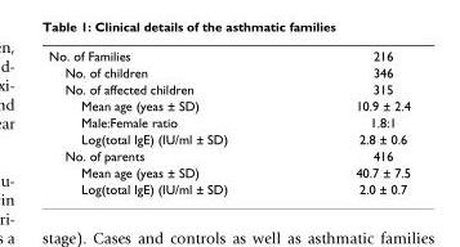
<table><tbody><tr><td>No. of Families</td><td>216</td></tr><tr><td>No. of children</td><td>346</td></tr><tr><td>No. of affected children</td><td>315</td></tr><tr><td>Mean age (yeas ± SD)</td><td>10.9 ± 2.4</td></tr><tr><td>Male:Female ratio</td><td>1.8:1</td></tr><tr><td>Log(total IgE) (IU/ml ± SD)</td><td>2.8 ± 0.6</td></tr><tr><td>No. of parents</td><td>416</td></tr><tr><td>Mean age (yeas ± SD)</td><td>40.7 ± 7.5</td></tr><tr><td>Log(total IgE) (IU/ml ± SD)</td><td>2.0 ± 0.7</td></tr></tbody></table>